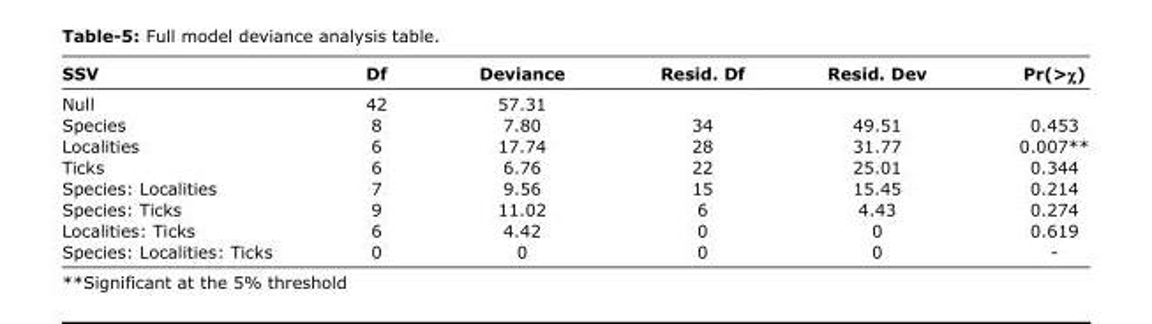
<table><thead><tr><td>SSV</td><td>Df</td><td>Deviance</td><td>Resid. Df</td><td>Resid. Dev</td><td>Pr(&gt;χ)</td></tr></thead><tbody><tr><td>Null</td><td>42</td><td>57.31</td><td></td><td></td><td></td></tr><tr><td>Species</td><td>8</td><td>7.80</td><td>34</td><td>49.51</td><td>0.453</td></tr><tr><td>Localities</td><td>6</td><td>17.74</td><td>28</td><td>31.77</td><td>0.007**</td></tr><tr><td>Ticks</td><td>6</td><td>6.76</td><td>22</td><td>25.01</td><td>0.344</td></tr><tr><td>Species: Localities</td><td>7</td><td>9.56</td><td>15</td><td>15.45</td><td>0.214</td></tr><tr><td>Species: Ticks</td><td>9</td><td>11.02</td><td>6</td><td>4.43</td><td>0.274</td></tr><tr><td>Localities: Ticks</td><td>6</td><td>4.42</td><td>0</td><td>0</td><td>0.619</td></tr><tr><td>Species: Localities: Ticks</td><td>0</td><td>0</td><td>0</td><td>0</td><td>-</td></tr></tbody></table>